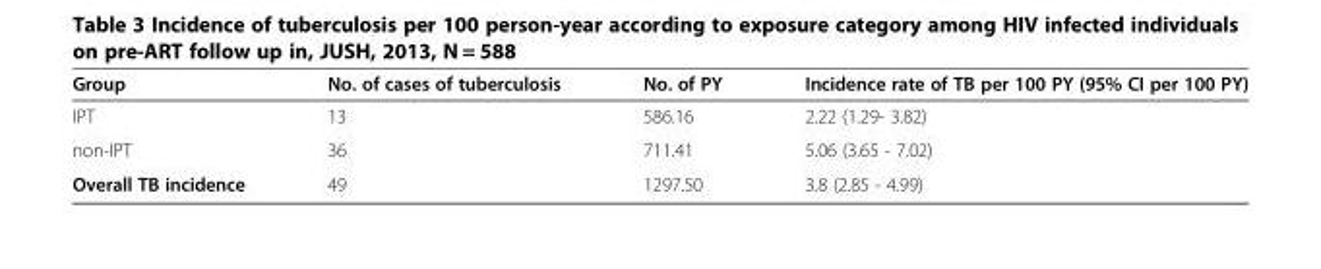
<table><thead><tr><td>Group</td><td>No. of cases of tuberculosis</td><td>No. of PY</td><td>Incidence rate of TB per 100 PY (95% CI per 100 PY)</td></tr></thead><tbody><tr><td>IPT</td><td>13</td><td>586.16</td><td>2.22 (1.29- 3.82)</td></tr><tr><td>non-IPT</td><td>36</td><td>711.41</td><td>5.06 (3.65 - 7.02)</td></tr><tr><td>Overall TB incidence</td><td>49</td><td>1297.50</td><td>3.8 (2.85 - 4.99)</td></tr></tbody></table>